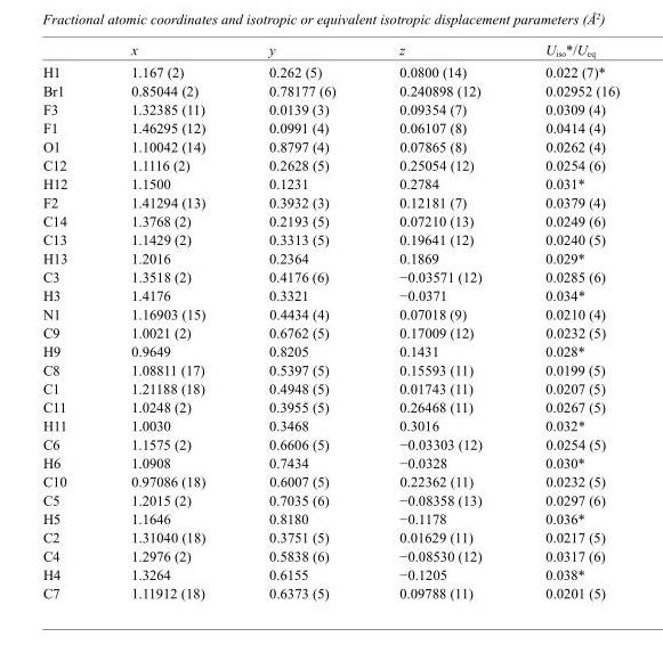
<table><thead><tr><td></td><td>x</td><td>y</td><td>z</td><td>U<sub>iso</sub>*/U<sub>eq</sub></td></tr></thead><tbody><tr><td>H1</td><td>1.167 (2)</td><td>0.262 (5)</td><td>0.0800 (14)</td><td>0.022 (7)*</td></tr><tr><td>Br1</td><td>0.85044 (2)</td><td>0.78177 (6)</td><td>0.240898 (12)</td><td>0.02952 (16)</td></tr><tr><td>F3</td><td>1.32385 (11)</td><td>0.0139 (3)</td><td>0.09354 (7)</td><td>0.0309 (4)</td></tr><tr><td>F1</td><td>1.46295 (12)</td><td>0.0991 (4)</td><td>0.06107 (8)</td><td>0.0414 (4)</td></tr><tr><td>O1</td><td>1.10042 (14)</td><td>0.8797 (4)</td><td>0.07865 (8)</td><td>0.0262 (4)</td></tr><tr><td>C12</td><td>1.1116 (2)</td><td>0.2628 (5)</td><td>0.25054 (12)</td><td>0.0254 (6)</td></tr><tr><td>H12</td><td>1.1500</td><td>0.1231</td><td>0.2784</td><td>0.031*</td></tr><tr><td>F2</td><td>1.41294 (13)</td><td>0.3932 (3)</td><td>0.12181 (7)</td><td>0.0379 (4)</td></tr><tr><td>C14</td><td>1.3768 (2)</td><td>0.2193 (5)</td><td>0.07210 (13)</td><td>0.0249 (6)</td></tr><tr><td>C13</td><td>1.1429 (2)</td><td>0.3313 (5)</td><td>0.19641 (12)</td><td>0.0240 (5)</td></tr><tr><td>H13</td><td>1.2016</td><td>0.2364</td><td>0.1869</td><td>0.029*</td></tr><tr><td>C3</td><td>1.3518 (2)</td><td>0.4176 (6)</td><td>−0.03571 (12)</td><td>0.0285 (6)</td></tr><tr><td>H3</td><td>1.4176</td><td>0.3321</td><td>−0.0371</td><td>0.034*</td></tr><tr><td>N1</td><td>1.16903 (15)</td><td>0.4434 (4)</td><td>0.07018 (9)</td><td>0.0210 (4)</td></tr><tr><td>C9</td><td>1.0021 (2)</td><td>0.6762 (5)</td><td>0.17009 (12)</td><td>0.0232 (5)</td></tr><tr><td>H9</td><td>0.9649</td><td>0.8205</td><td>0.1431</td><td>0.028*</td></tr><tr><td>C8</td><td>1.08811 (17)</td><td>0.5397 (5)</td><td>0.15593 (11)</td><td>0.0199 (5)</td></tr><tr><td>C1</td><td>1.21188 (18)</td><td>0.4948 (5)</td><td>0.01743 (11)</td><td>0.0207 (5)</td></tr><tr><td>C11</td><td>1.0248 (2)</td><td>0.3955 (5)</td><td>0.26468 (11)</td><td>0.0267 (5)</td></tr><tr><td>H11</td><td>1.0030</td><td>0.3468</td><td>0.3016</td><td>0.032*</td></tr><tr><td>C6</td><td>1.1575 (2)</td><td>0.6606 (5)</td><td>−0.03303 (12)</td><td>0.0254 (5)</td></tr><tr><td>H6</td><td>1.0908</td><td>0.7434</td><td>−0.0328</td><td>0.030*</td></tr><tr><td>C10</td><td>0.97086 (18)</td><td>0.6007 (5)</td><td>0.22362 (11)</td><td>0.0232 (5)</td></tr><tr><td>C5</td><td>1.2015 (2)</td><td>0.7035 (6)</td><td>−0.08358 (13)</td><td>0.0297 (6)</td></tr><tr><td>H5</td><td>1.1646</td><td>0.8180</td><td>−0.1178</td><td>0.036*</td></tr><tr><td>C2</td><td>1.31040 (18)</td><td>0.3751 (5)</td><td>0.01629 (11)</td><td>0.0217 (5)</td></tr><tr><td>C4</td><td>1.2976 (2)</td><td>0.5838 (6)</td><td>−0.08530 (12)</td><td>0.0317 (6)</td></tr><tr><td>H4</td><td>1.3264</td><td>0.6155</td><td>−0.1205</td><td>0.038*</td></tr><tr><td>C7</td><td>1.11912 (18)</td><td>0.6373 (5)</td><td>0.09788 (11)</td><td>0.0201 (5)</td></tr></tbody></table>